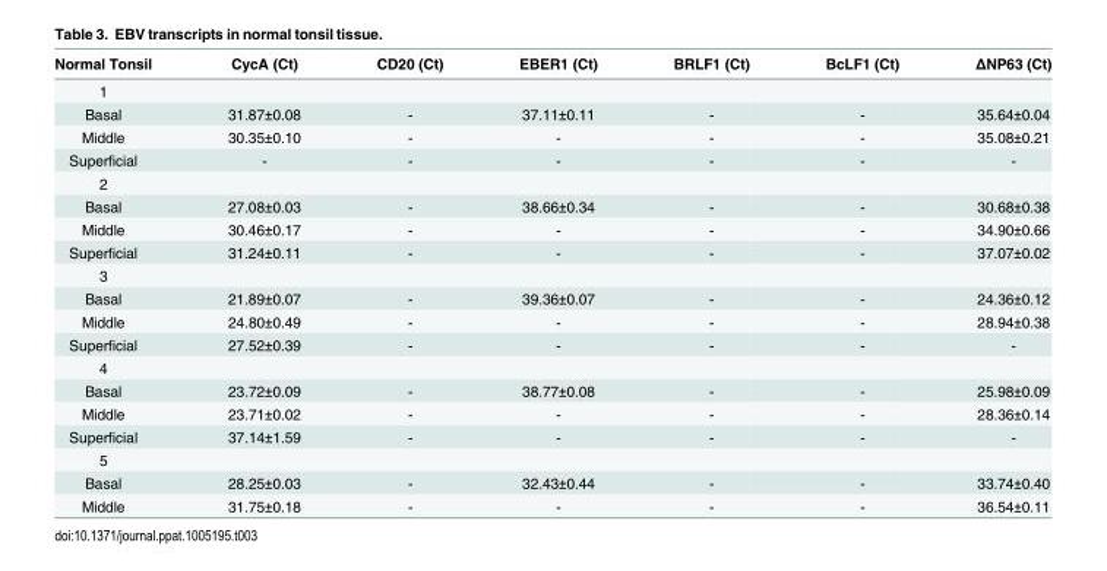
<table><thead><tr><td>Normal Tonsil</td><td>CycA (Ct)</td><td>CD20 (Ct)</td><td>EBER1 (Ct)</td><td>BRLF1 (Ct)</td><td>BcLF1 (Ct)</td><td>ΔNP63 (Ct)</td></tr></thead><tbody><tr><td colspan="7">1</td></tr><tr><td>Basal</td><td>31.87±0.08</td><td>-</td><td>37.11±0.11</td><td>-</td><td>-</td><td>35.64±0.04</td></tr><tr><td>Middle</td><td>30.35±0.10</td><td>-</td><td>-</td><td>-</td><td>-</td><td>35.08±0.21</td></tr><tr><td>Superficial</td><td>-</td><td>-</td><td>-</td><td>-</td><td>-</td><td>-</td></tr><tr><td colspan="7">2</td></tr><tr><td>Basal</td><td>27.08±0.03</td><td>-</td><td>38.66±0.34</td><td>-</td><td>-</td><td>30.68±0.38</td></tr><tr><td>Middle</td><td>30.46±0.17</td><td>-</td><td>-</td><td>-</td><td>-</td><td>34.90±0.66</td></tr><tr><td>Superficial</td><td>31.24±0.11</td><td>-</td><td>-</td><td>-</td><td>-</td><td>37.07±0.02</td></tr><tr><td colspan="7">3</td></tr><tr><td>Basal</td><td>21.89±0.07</td><td>-</td><td>39.36±0.07</td><td>-</td><td>-</td><td>24.36±0.12</td></tr><tr><td>Middle</td><td>24.80±0.49</td><td>-</td><td>-</td><td>-</td><td>-</td><td>28.94±0.38</td></tr><tr><td>Superficial</td><td>27.52±0.39</td><td>-</td><td>-</td><td>-</td><td>-</td><td>-</td></tr><tr><td colspan="7">4</td></tr><tr><td>Basal</td><td>23.72±0.09</td><td>-</td><td>38.77±0.08</td><td>-</td><td>-</td><td>25.98±0.09</td></tr><tr><td>Middle</td><td>23.71±0.02</td><td>-</td><td>-</td><td>-</td><td>-</td><td>28.36±0.14</td></tr><tr><td>Superficial</td><td>37.14±1.59</td><td>-</td><td>-</td><td>-</td><td>-</td><td>-</td></tr><tr><td colspan="7">5</td></tr><tr><td>Basal</td><td>28.25±0.03</td><td>-</td><td>32.43±0.44</td><td>-</td><td>-</td><td>33.74±0.40</td></tr><tr><td>Middle</td><td>31.75±0.18</td><td>-</td><td>-</td><td>-</td><td>-</td><td>36.54±0.11</td></tr></tbody></table>